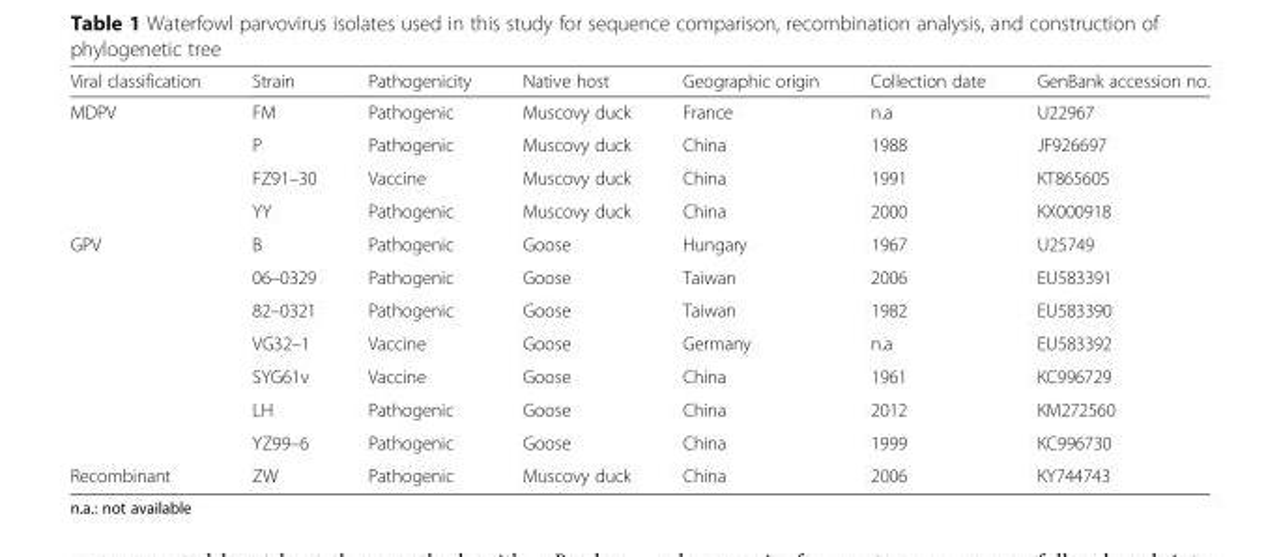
<table><thead><tr><td>Viral classification</td><td>Strain</td><td>Pathogenicity</td><td>Native host</td><td>Geographic origin</td><td>Collection date</td><td>GenBank accession no.</td></tr></thead><tbody><tr><td rowspan="4">MDPV</td><td>FM</td><td>Pathogenic</td><td>Muscovy duck</td><td>France</td><td>n.a</td><td>U22967</td></tr><tr><td>P</td><td>Pathogenic</td><td>Muscovy duck</td><td>China</td><td>1988</td><td>JF926697</td></tr><tr><td>FZ91–30</td><td>Vaccine</td><td>Muscovy duck</td><td>China</td><td>1991</td><td>KT865605</td></tr><tr><td>YY</td><td>Pathogenic</td><td>Muscovy duck</td><td>China</td><td>2000</td><td>KX000918</td></tr><tr><td rowspan="7">GPV</td><td>B</td><td>Pathogenic</td><td>Goose</td><td>Hungary</td><td>1967</td><td>U25749</td></tr><tr><td>06–0329</td><td>Pathogenic</td><td>Goose</td><td>Taiwan</td><td>2006</td><td>EU583391</td></tr><tr><td>82–0321</td><td>Pathogenic</td><td>Goose</td><td>Taiwan</td><td>1982</td><td>EU583390</td></tr><tr><td>VG32–1</td><td>Vaccine</td><td>Goose</td><td>Germany</td><td>n.a</td><td>EU583392</td></tr><tr><td>SYG61v</td><td>Vaccine</td><td>Goose</td><td>China</td><td>1961</td><td>KC996729</td></tr><tr><td>LH</td><td>Pathogenic</td><td>Goose</td><td>China</td><td>2012</td><td>KM272560</td></tr><tr><td>YZ99–6</td><td>Pathogenic</td><td>Goose</td><td>China</td><td>1999</td><td>KC996730</td></tr><tr><td>Recombinant</td><td>ZW</td><td>Pathogenic</td><td>Muscovy duck</td><td>China</td><td>2006</td><td>KY744743</td></tr></tbody></table>